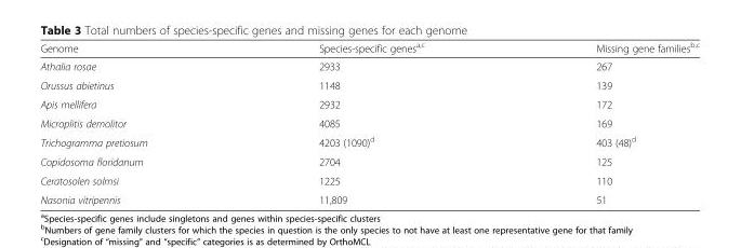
<table><thead><tr><td>Genome</td><td>Species-specific genes<sup>a,c</sup></td><td>Missing gene families<sup>b,c</sup></td></tr></thead><tbody><tr><td>Athalia rosae</td><td>2933</td><td>267</td></tr><tr><td>Orussus abietinus</td><td>1148</td><td>139</td></tr><tr><td>Apis mellifera</td><td>2932</td><td>172</td></tr><tr><td>Microplitis demolitor</td><td>4085</td><td>169</td></tr><tr><td>Trichogramma pretiosum</td><td>4203 (1090)<sup>d</sup></td><td>403 (48)<sup>d</sup></td></tr><tr><td>Copidosoma floridanum</td><td>2704</td><td>125</td></tr><tr><td>Ceratosolen solmsi</td><td>1225</td><td>110</td></tr><tr><td>Nasonia vitripennis</td><td>11,809</td><td>51</td></tr></tbody></table>